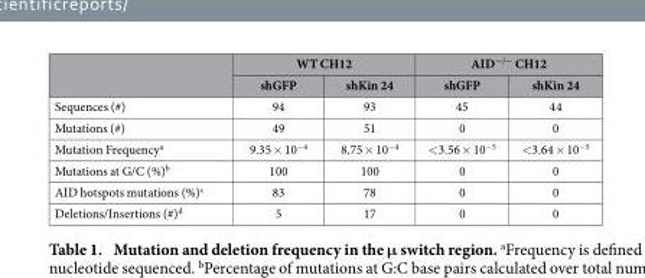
<table><thead><tr><td rowspan="2"></td><td colspan="2">WT CH12</td><td colspan="2">AID<sup>−/−</sup> CH12</td></tr><tr><td>shGFP</td><td>shKin 24</td><td>shGFP</td><td>shKin 24</td></tr></thead><tbody><tr><td>Sequences (#)</td><td>94</td><td>93</td><td>45</td><td>44</td></tr><tr><td>Mutations (#)</td><td>49</td><td>51</td><td>0</td><td>0</td></tr><tr><td>Mutation Frequency<sup>a</sup></td><td>9.35 × 10<sup>−4</sup></td><td>8.75 × 10<sup>−4</sup></td><td>&lt; 3.56 × 10<sup>−5</sup></td><td>&lt; 3.64 × 10<sup>−5</sup></td></tr><tr><td>Mutations at G/C (%)<sup>b</sup></td><td>100</td><td>100</td><td>0</td><td>0</td></tr><tr><td>AID hotspots mutations (%)<sup>c</sup></td><td>83</td><td>78</td><td>0</td><td>0</td></tr><tr><td>Deletions/Insertions (#)<sup>d</sup></td><td>5</td><td>17</td><td>0</td><td>0</td></tr></tbody></table>